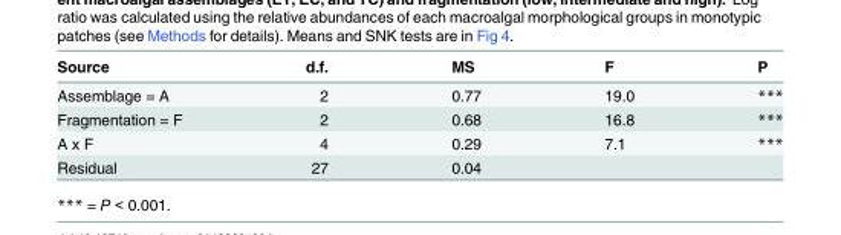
<table><thead><tr><td>Source</td><td>d.f.</td><td>MS</td><td>F</td><td>P</td></tr></thead><tbody><tr><td>Assemblage = A</td><td>2</td><td>0.77</td><td>19.0</td><td>***</td></tr><tr><td>Fragmentation = F</td><td>2</td><td>0.68</td><td>16.8</td><td>***</td></tr><tr><td>A x F</td><td>4</td><td>0.29</td><td>7.1</td><td>***</td></tr><tr><td>Residual</td><td>27</td><td>0.04</td><td></td><td></td></tr></tbody></table>